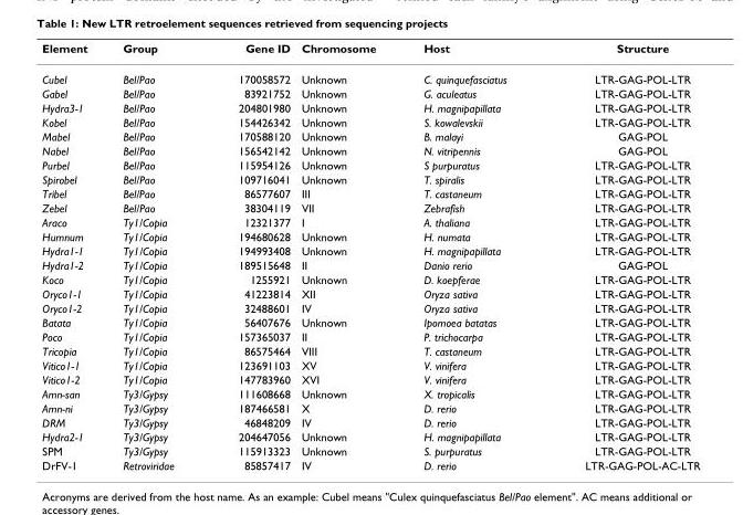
<table><thead><tr><td>Element</td><td>Group</td><td>Gene ID</td><td>Chromosome</td><td>Host</td><td>Structure</td></tr></thead><tbody><tr><td>Cubel</td><td>Bel/Pao</td><td>170058572</td><td>Unknown</td><td>C. quinquefasciatus</td><td>LTR-GAG-POL-LTR</td></tr><tr><td>Gabel</td><td>Bel/Pao</td><td>83921752</td><td>Unknown</td><td>G. aculeatus</td><td>LTR-GAG-POL-LTR</td></tr><tr><td>Hydra3-1</td><td>Bel/Pao</td><td>204801980</td><td>Unknown</td><td>H. magnipapillata</td><td>LTR-GAG-POL-LTR</td></tr><tr><td>Kobel</td><td>Bel/Pao</td><td>154426342</td><td>Unknown</td><td>S. kowalevskii</td><td>LTR-GAG-POL-LTR</td></tr><tr><td>Mabel</td><td>Bel/Pao</td><td>170588120</td><td>Unknown</td><td>B. malayi</td><td>GAG-POL</td></tr><tr><td>Nabel</td><td>Bel/Pao</td><td>156542142</td><td>Unknown</td><td>N. vitripennis</td><td>GAG-POL</td></tr><tr><td>Purbel</td><td>Bel/Pao</td><td>115954126</td><td>Unknown</td><td>S purpuratus</td><td>LTR-GAG-POL-LTR</td></tr><tr><td>Spirobel</td><td>Bel/Pao</td><td>109716041</td><td>Unknown</td><td>T. spiralis</td><td>LTR-GAG-POL-LTR</td></tr><tr><td>Tribel</td><td>Bel/Pao</td><td>86577607</td><td>III</td><td>T. castaneum</td><td>LTR-GAG-POL-LTR</td></tr><tr><td>Zebel</td><td>Bel/Pao</td><td>38304119</td><td>VII</td><td>Zebrafish</td><td>LTR-GAG-POL-LTR</td></tr><tr><td>Araco</td><td>Ty1/Copia</td><td>12321377</td><td>I</td><td>A. thaliana</td><td>LTR-GAG-POL-LTR</td></tr><tr><td>Humnum</td><td>Ty1/Copia</td><td>194680628</td><td>Unknown</td><td>H. numata</td><td>LTR-GAG-POL-LTR</td></tr><tr><td>Hydra1-1</td><td>Ty1/Copia</td><td>194993408</td><td>Unknown</td><td>H. magnipapillata</td><td>LTR-GAG-POL-LTR</td></tr><tr><td>Hydra1-2</td><td>Ty1/Copia</td><td>189515648</td><td>II</td><td>Danio rerio</td><td>GAG-POL</td></tr><tr><td>Koco</td><td>Ty1/Copia</td><td>1255921</td><td>Unknown</td><td>D. koepferae</td><td>LTR-GAG-POL-LTR</td></tr><tr><td>Oryco1-1</td><td>Ty1/Copia</td><td>41223814</td><td>XII</td><td>Oryza sativa</td><td>LTR-GAG-POL-LTR</td></tr><tr><td>Oryco1-2</td><td>Ty1/Copia</td><td>32488601</td><td>IV</td><td>Oryza sativa</td><td>LTR-GAG-POL-LTR</td></tr><tr><td>Batata</td><td>Ty1/Copia</td><td>56407676</td><td>Unknown</td><td>Ipomoea batatas</td><td>LTR-GAG-POL-LTR</td></tr><tr><td>Poco</td><td>Ty1/Copia</td><td>157365037</td><td>II</td><td>P. trichocarpa</td><td>LTR-GAG-POL-LTR</td></tr><tr><td>Tricopia</td><td>Ty1/Copia</td><td>86575464</td><td>VIII</td><td>T. castaneum</td><td>LTR-GAG-POL-LTR</td></tr><tr><td>Vitico1-1</td><td>Ty1/Copia</td><td>123691103</td><td>XV</td><td>V. vinifera</td><td>LTR-GAG-POL-LTR</td></tr><tr><td>Vitico1-2</td><td>Ty1/Copia</td><td>147783960</td><td>XVI</td><td>V. vinifera</td><td>LTR-GAG-POL-LTR</td></tr><tr><td>Amn-san</td><td>Ty3/Gypsy</td><td>111608668</td><td>Unknown</td><td>X. tropicalis</td><td>LTR-GAG-POL-LTR</td></tr><tr><td>Amn-ni</td><td>Ty3/Gypsy</td><td>187466581</td><td>X</td><td>D. rerio</td><td>LTR-GAG-POL-LTR</td></tr><tr><td>DRM</td><td>Ty3/Gypsy</td><td>46848209</td><td>IV</td><td>D. rerio</td><td>LTR-GAG-POL-LTR</td></tr><tr><td>Hydra2-1</td><td>Ty3/Gypsy</td><td>204647056</td><td>Unknown</td><td>H. magnipapillata</td><td>LTR-GAG-POL-LTR</td></tr><tr><td>SPM</td><td>Ty3/Gypsy</td><td>115913323</td><td>Unknown</td><td>S. purpuratus</td><td>LTR-GAG-POL-LTR</td></tr><tr><td>DrFV-1</td><td>Retroviridae</td><td>85857417</td><td>IV</td><td>D. rerio</td><td>LTR-GAG-POL-AC-LTR</td></tr></tbody></table>